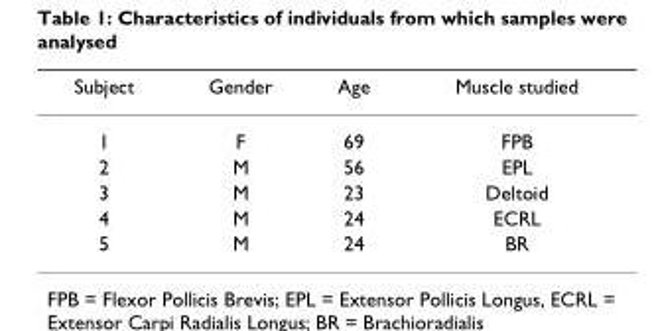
<table><thead><tr><td>Subject</td><td>Gender</td><td>Age</td><td>Muscle studied</td></tr></thead><tbody><tr><td>1</td><td>F</td><td>69</td><td>FPB</td></tr><tr><td>2</td><td>M</td><td>56</td><td>EPL</td></tr><tr><td>3</td><td>M</td><td>23</td><td>Deltoid</td></tr><tr><td>4</td><td>M</td><td>24</td><td>ECRL</td></tr><tr><td>5</td><td>M</td><td>24</td><td>BR</td></tr></tbody></table>